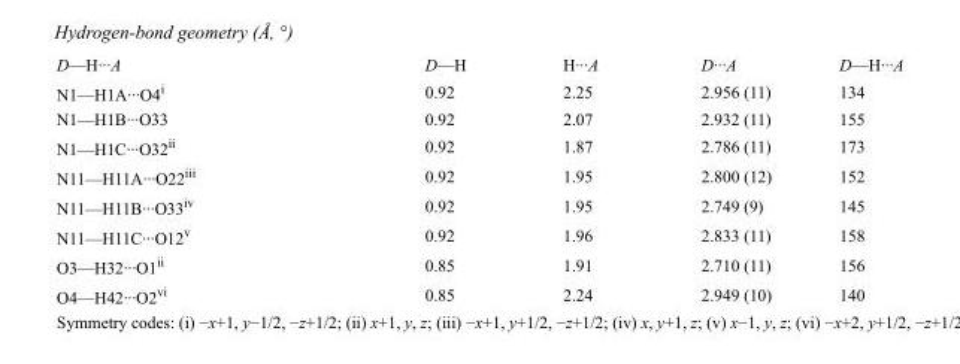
<table><tbody><tr><td>D—H···A</td><td>D—H</td><td>H···A</td><td>D···A</td><td>D—H···A</td></tr><tr><td>N1—H1A···O4<sup>i</sup></td><td>0.92</td><td>2.25</td><td>2.956 (11)</td><td>134</td></tr><tr><td>N1—H1B···O33</td><td>0.92</td><td>2.07</td><td>2.932 (11)</td><td>155</td></tr><tr><td>N1—H1C···O32<sup>ii</sup></td><td>0.92</td><td>1.87</td><td>2.786 (11)</td><td>173</td></tr><tr><td>N11—H11A···O22<sup>iii</sup></td><td>0.92</td><td>1.95</td><td>2.800 (12)</td><td>152</td></tr><tr><td>N11—H11B···O33<sup>iv</sup></td><td>0.92</td><td>1.95</td><td>2.749 (9)</td><td>145</td></tr><tr><td>N11—H11C···O12<sup>v</sup></td><td>0.92</td><td>1.96</td><td>2.833 (11)</td><td>158</td></tr><tr><td>O3—H32···O1<sup>ii</sup></td><td>0.85</td><td>1.91</td><td>2.710 (11)</td><td>156</td></tr><tr><td>O4—H42···O2<sup>vi</sup></td><td>0.85</td><td>2.24</td><td>2.949 (10)</td><td>140</td></tr></tbody></table>